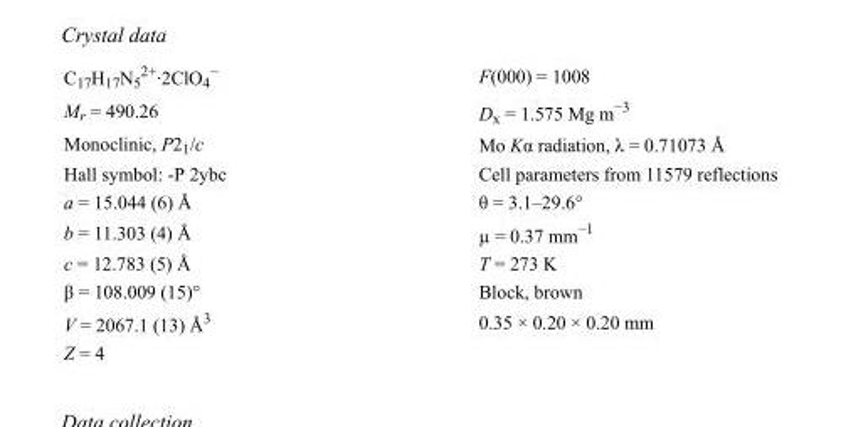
<table><tbody><tr><td>C<sub>17</sub>H<sub>17</sub>N<sub>5</sub> <sup>2+</sup>·2ClO<sub>4</sub> <sup>−</sup></td><td>F(000) = 1008</td></tr><tr><td>M<sub>r</sub> = 490.26</td><td>D<sub>x</sub> = 1.575 Mg m<sup>−3</sup></td></tr><tr><td>Monoclinic, P2<sub>1</sub>/c</td><td>Mo Kα radiation, λ = 0.71073 Å</td></tr><tr><td>Hall symbol: -P 2ybc</td><td>Cell parameters from 11579 reflections</td></tr><tr><td>a = 15.044 (6) Å</td><td>θ = 3.1–29.6°</td></tr><tr><td>b = 11.303 (4) Å</td><td>µ = 0.37 mm<sup>−1</sup></td></tr><tr><td>c = 12.783 (5) Å</td><td>T = 273 K</td></tr><tr><td>β = 108.009 (15)°</td><td>Block, brown</td></tr><tr><td>V = 2067.1 (13) Å<sup>3</sup></td><td>0.35 × 0.20 × 0.20 mm</td></tr><tr><td>Z = 4</td><td></td></tr></tbody></table>